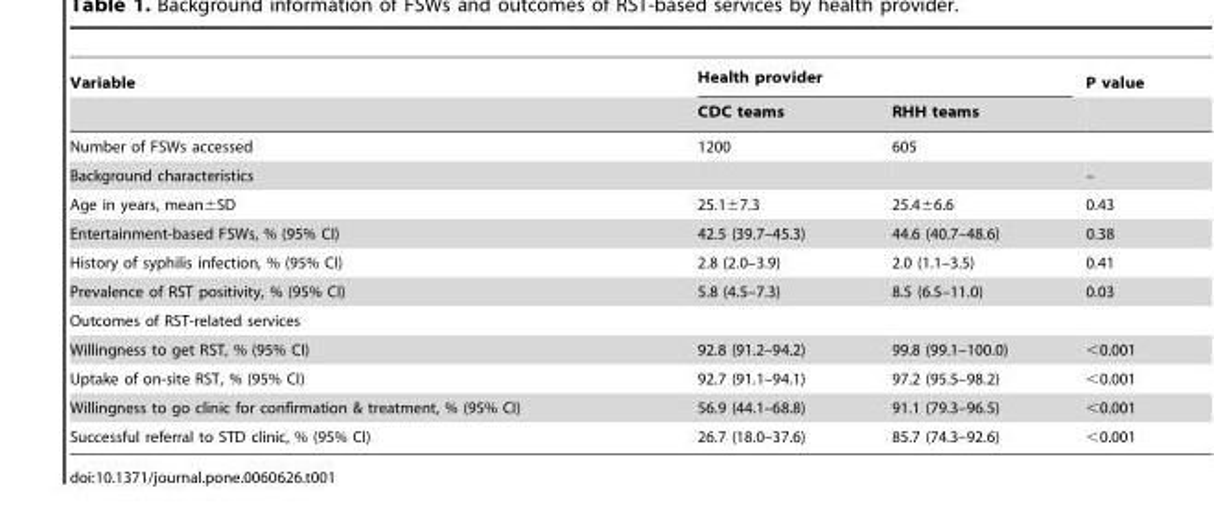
<table><thead><tr><td rowspan="2">Variable</td><td colspan="2">Health provider</td><td rowspan="2">P value</td></tr><tr><td>CDC teams</td><td>RHH teams</td></tr></thead><tbody><tr><td>Number of FSWs accessed</td><td>1200</td><td>605</td><td></td></tr><tr><td>Background characteristics</td><td></td><td></td><td>–</td></tr><tr><td>Age in years, mean±SD</td><td>25.1±7.3</td><td>25.4±6.6</td><td>0.43</td></tr><tr><td>Entertainment-based FSWs, % (95% CI)</td><td>42.5 (39.7–45.3)</td><td>44.6 (40.7–48.6)</td><td>0.38</td></tr><tr><td>History of syphilis infection, % (95% CI)</td><td>2.8 (2.0–3.9)</td><td>2.0 (1.1–3.5)</td><td>0.41</td></tr><tr><td>Prevalence of RST positivity, % (95% CI)</td><td>5.8 (4.5–7.3)</td><td>8.5 (6.5–11.0)</td><td>0.03</td></tr><tr><td colspan="4">Outcomes of RST-related services</td></tr><tr><td>Willingness to get RST, % (95% CI)</td><td>92.8 (91.2–94.2)</td><td>99.8 (99.1–100.0)</td><td>&lt;0.001</td></tr><tr><td>Uptake of on-site RST, % (95% CI)</td><td>92.7 (91.1–94.1)</td><td>97.2 (95.5–98.2)</td><td>&lt;0.001</td></tr><tr><td>Willingness to go clinic for confirmation &amp; treatment, % (95% CI)</td><td>56.9 (44.1–68.8)</td><td>91.1 (79.3–96.5)</td><td>&lt;0.001</td></tr><tr><td>Successful referral to STD clinic, % (95% CI)</td><td>26.7 (18.0–37.6)</td><td>85.7 (74.3–92.6)</td><td>&lt;0.001</td></tr></tbody></table>